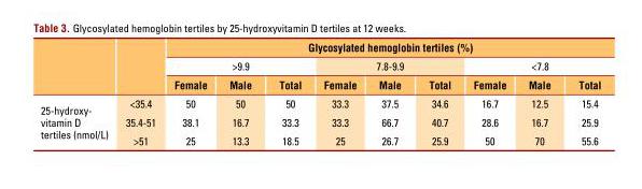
<table><thead><tr><td rowspan="3"></td><td rowspan="3"></td><td colspan="9">Glycosylated hemoglobin tertiles (%)</td></tr><tr><td colspan="3">&gt;9.9</td><td colspan="3">7.8-9.9</td><td colspan="3">&lt;7.8</td></tr><tr><td>Female</td><td>Male</td><td>Total</td><td>Female</td><td>Male</td><td>Total</td><td>Female</td><td>Male</td><td>Total</td></tr></thead><tbody><tr><td rowspan="3">25-hydroxy- vitamin D tertiles (nmol/L)</td><td>&lt;35.4</td><td>50</td><td>50</td><td>50</td><td>33.3</td><td>37.5</td><td>34.6</td><td>16.7</td><td>12.5</td><td>15.4</td></tr><tr><td>35.4-51</td><td>38.1</td><td>16.7</td><td>33.3</td><td>33.3</td><td>66.7</td><td>40.7</td><td>28.6</td><td>16.7</td><td>25.9</td></tr><tr><td>&gt;51</td><td>25</td><td>13.3</td><td>18.5</td><td>25</td><td>26.7</td><td>25.9</td><td>50</td><td>70</td><td>55.6</td></tr></tbody></table>